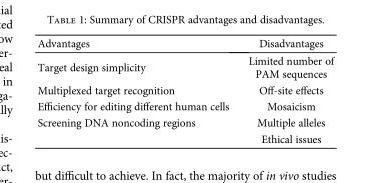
<table><thead><tr><td>Advantages</td><td>Disadvantages</td></tr></thead><tbody><tr><td>Target design simplicity</td><td>Limited number of PAM sequences</td></tr><tr><td>Multiplexed target recognition</td><td>Off-site effects</td></tr><tr><td>Efficiency for editing different human cells</td><td>Mosaicism</td></tr><tr><td rowspan="2">Screening DNA noncoding regions</td><td>Multiple alleles</td></tr><tr><td>Ethical issues</td></tr></tbody></table>